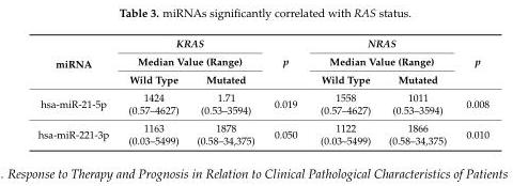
<table><thead><tr><td rowspan="3">miRNA</td><td rowspan="2" colspan="2">KRAS Median Value (Range)</td><td rowspan="3">p</td><td rowspan="2" colspan="2">NRAS Median Value (Range)</td><td rowspan="3">p</td></tr><tr></tr><tr><td>Wild Type</td><td>Mutated</td><td>Wild Type</td><td>Mutated</td></tr></thead><tbody><tr><td>hsa-miR-21-5p</td><td>1424 (0.57–4627)</td><td>1.71 (0.53–3594)</td><td>0.019</td><td>1558 (0.57–4627)</td><td>1011 (0.53–3594)</td><td>0.008</td></tr><tr><td>hsa-miR-221-3p</td><td>1163 (0.03–5499)</td><td>1878 (0.58–34,375)</td><td>0.050</td><td>1122 (0.03–5499)</td><td>1866 (0.58–34,375)</td><td>0.010</td></tr></tbody></table>